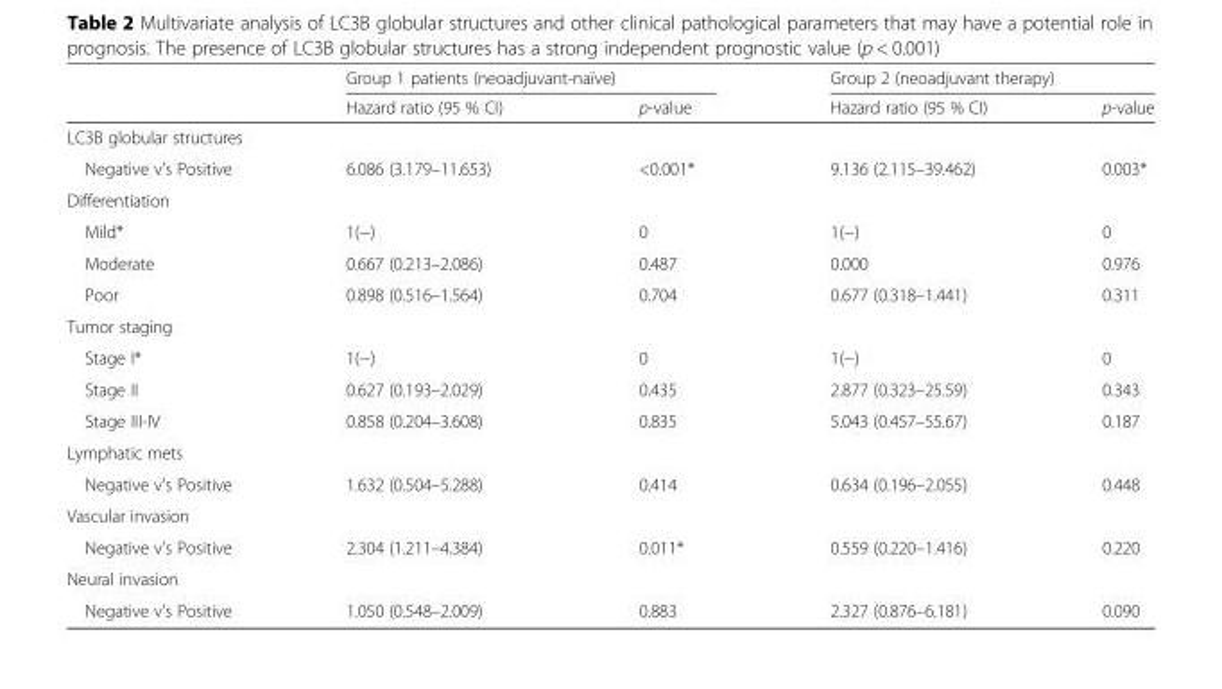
<table><thead><tr><td rowspan="2"></td><td colspan="2">Group 1 patients (neoadjuvant-naïve)</td><td colspan="2">Group 2 (neoadjuvant therapy)</td></tr><tr><td>Hazard ratio (95 % CI)</td><td>p-value</td><td>Hazard ratio (95 % CI)</td><td>p-value</td></tr></thead><tbody><tr><td colspan="5">LC3B globular structures</td></tr><tr><td>Negative v’s Positive</td><td>6.086 (3.179–11.653)</td><td>&lt;0.001*</td><td>9.136 (2.115–39.462)</td><td>0.003*</td></tr><tr><td colspan="5">Differentiation</td></tr><tr><td>Mild*</td><td>1(−)</td><td>0</td><td>1(−)</td><td>0</td></tr><tr><td>Moderate</td><td>0.667 (0.213–2.086)</td><td>0.487</td><td>0.000</td><td>0.976</td></tr><tr><td>Poor</td><td>0.898 (0.516–1.564)</td><td>0.704</td><td>0.677 (0.318–1.441)</td><td>0.311</td></tr><tr><td colspan="5">Tumor staging</td></tr><tr><td>Stage I*</td><td>1(−)</td><td>0</td><td>1(−)</td><td>0</td></tr><tr><td>Stage II</td><td>0.627 (0.193–2.029)</td><td>0.435</td><td>2.877 (0.323–25.59)</td><td>0.343</td></tr><tr><td>Stage III-IV</td><td>0.858 (0.204–3.608)</td><td>0.835</td><td>5.043 (0.457–55.67)</td><td>0.187</td></tr><tr><td colspan="5">Lymphatic mets</td></tr><tr><td>Negative v’s Positive</td><td>1.632 (0.504–5.288)</td><td>0.414</td><td>0.634 (0.196–2.055)</td><td>0.448</td></tr><tr><td colspan="5">Vascular invasion</td></tr><tr><td>Negative v’s Positive</td><td>2.304 (1.211–4.384)</td><td>0.011*</td><td>0.559 (0.220–1.416)</td><td>0.220</td></tr><tr><td colspan="5">Neural invasion</td></tr><tr><td>Negative v’s Positive</td><td>1.050 (0.548–2.009)</td><td>0.883</td><td>2.327 (0.876–6.181)</td><td>0.090</td></tr></tbody></table>